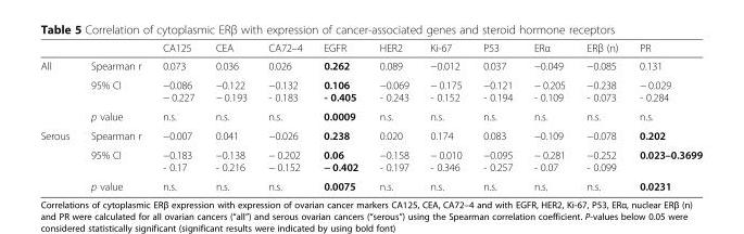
<table><thead><tr><td></td><td></td><td>CA125</td><td>CEA</td><td>CA72–4</td><td>EGFR</td><td>HER2</td><td>Ki-67</td><td>P53</td><td>ERα</td><td>ERβ (n)</td><td>PR</td></tr></thead><tbody><tr><td rowspan="3">All</td><td>Spearman r</td><td>0.073</td><td>0.036</td><td>0.026</td><td>0.262</td><td>0.089</td><td>−0.012</td><td>0.037</td><td>−0.049</td><td>−0.085</td><td>0.131</td></tr><tr><td>95% CI</td><td>−0.086 − 0.227</td><td>−0.122 − 0.193</td><td>−0.132 - 0.183</td><td>0.106 - 0.405</td><td>−0.069 - 0.243</td><td>− 0.175 - 0.152</td><td>−0.121 - 0.194</td><td>− 0.205 - 0.109</td><td>−0.238 - 0.073</td><td>− 0.029 - 0.284</td></tr><tr><td>p value</td><td>n.s.</td><td>n.s.</td><td>n.s.</td><td>0.0009</td><td>n.s.</td><td>n.s.</td><td>n.s.</td><td>n.s.</td><td>n.s.</td><td>n.s.</td></tr><tr><td rowspan="3">Serous</td><td>Spearman r</td><td>−0.007</td><td>0.041</td><td>−0.026</td><td>0.238</td><td>0.020</td><td>0.174</td><td>0.083</td><td>−0.109</td><td>−0.078</td><td>0.202</td></tr><tr><td>95% CI</td><td>−0.183 - 0.17</td><td>−0.138 - 0.216</td><td>− 0.202 − 0.152</td><td>0.06 − 0.402</td><td>−0.158 - 0.197</td><td>− 0.010 - 0.346</td><td>−0.095 - 0.257</td><td>− 0.281 - 0.07</td><td>−0.252 - 0.099</td><td>0.023–0.3699</td></tr><tr><td>p value</td><td>n.s.</td><td>n.s.</td><td>n.s.</td><td>0.0075</td><td>n.s.</td><td>n.s.</td><td>n.s.</td><td>n.s.</td><td>n.s.</td><td>0.0231</td></tr></tbody></table>